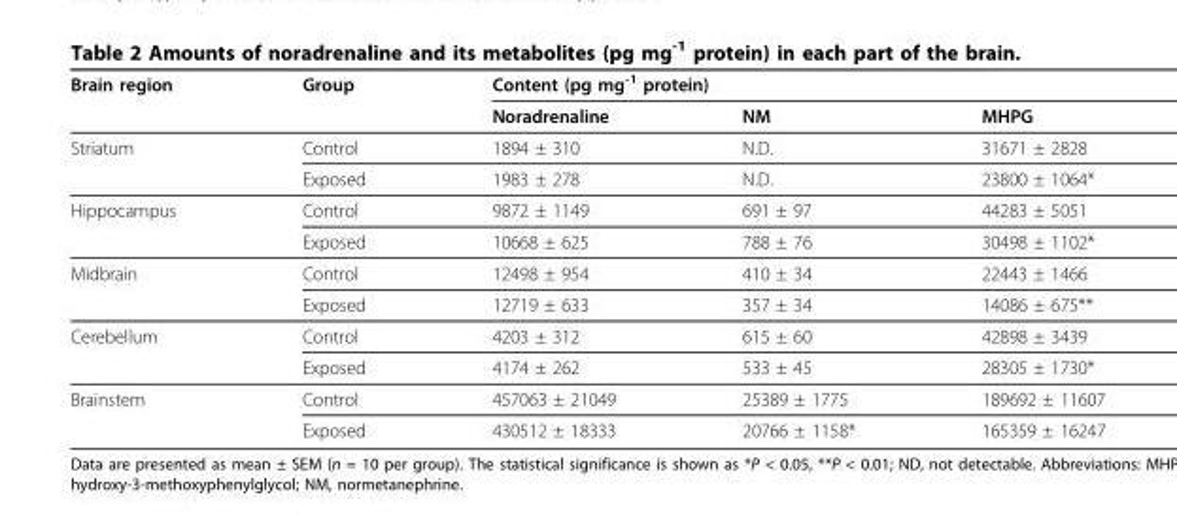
<table><thead><tr><td rowspan="2">Brain region</td><td rowspan="2">Group</td><td colspan="3">Content (pg mg<sup>-1</sup> protein)</td></tr><tr><td>Noradrenaline</td><td>NM</td><td>MHPG</td></tr></thead><tbody><tr><td rowspan="2">Striatum</td><td>Control</td><td>1894 ± 310</td><td>N.D.</td><td>31671 ± 2828</td></tr><tr><td>Exposed</td><td>1983 ± 278</td><td>N.D.</td><td>23800 ± 1064*</td></tr><tr><td rowspan="2">Hippocampus</td><td>Control</td><td>9872 ± 1149</td><td>691 ± 97</td><td>44283 ± 5051</td></tr><tr><td>Exposed</td><td>10668 ± 625</td><td>788 ± 76</td><td>30498 ± 1102*</td></tr><tr><td rowspan="2">Midbrain</td><td>Control</td><td>12498 ± 954</td><td>410 ± 34</td><td>22443 ± 1466</td></tr><tr><td>Exposed</td><td>12719 ± 633</td><td>357 ± 34</td><td>14086 ± 675**</td></tr><tr><td rowspan="2">Cerebellum</td><td>Control</td><td>4203 ± 312</td><td>615 ± 60</td><td>42898 ± 3439</td></tr><tr><td>Exposed</td><td>4174 ± 262</td><td>533 ± 45</td><td>28305 ± 1730*</td></tr><tr><td rowspan="2">Brainstem</td><td>Control</td><td>457063 ± 21049</td><td>25389 ± 1775</td><td>189692 ± 11607</td></tr><tr><td>Exposed</td><td>430512 ± 18333</td><td>20766 ± 1158*</td><td>165359 ± 16247</td></tr></tbody></table>